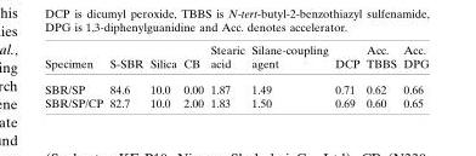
<table><thead><tr><td>Specimen</td><td>S-SBR</td><td>Silica</td><td>CB</td><td>Stearic acid</td><td>Silane-coupling agent</td><td>DCP</td><td>Acc. TBBS</td><td>Acc. DPG</td></tr></thead><tbody><tr><td>SBR/SP</td><td>84.6</td><td>10.0</td><td>0.00</td><td>1.87</td><td>1.49</td><td>0.71</td><td>0.62</td><td>0.66</td></tr><tr><td>SBR/SP/CP</td><td>82.7</td><td>10.0</td><td>2.00</td><td>1.83</td><td>1.50</td><td>0.69</td><td>0.60</td><td>0.65</td></tr></tbody></table>